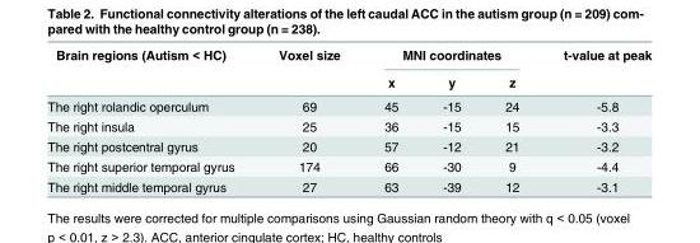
<table><thead><tr><td rowspan="2">Brain regions (Autism &lt; HC)</td><td rowspan="2">Voxel size</td><td colspan="3">MNI coordinates</td><td rowspan="2">t-value at peak</td></tr><tr><td>x</td><td>y</td><td>z</td></tr></thead><tbody><tr><td>The right rolandic operculum</td><td>69</td><td>45</td><td>-15</td><td>24</td><td>-5.8</td></tr><tr><td>The right insula</td><td>25</td><td>36</td><td>-15</td><td>15</td><td>-3.3</td></tr><tr><td>The right postcentral gyrus</td><td>20</td><td>57</td><td>-12</td><td>21</td><td>-3.2</td></tr><tr><td>The right superior temporal gyrus</td><td>174</td><td>66</td><td>-30</td><td>9</td><td>-4.4</td></tr><tr><td>The right middle temporal gyrus</td><td>27</td><td>63</td><td>-39</td><td>12</td><td>-3.1</td></tr></tbody></table>